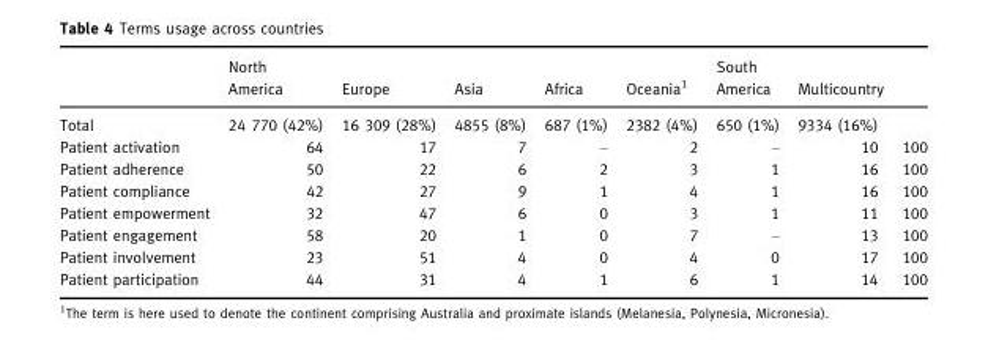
<table><thead><tr><td></td><td>North America</td><td>Europe</td><td>Asia</td><td>Africa</td><td>Oceania1</td><td>South America</td><td>Multicountry</td><td></td></tr></thead><tbody><tr><td>Total</td><td>24 770 (42%)</td><td>16 309 (28%)</td><td>4855 (8%)</td><td>687 (1%)</td><td>2382 (4%)</td><td>650 (1%)</td><td>9334 (16%)</td><td></td></tr><tr><td>Patient activation</td><td>64</td><td>17</td><td>7</td><td>–</td><td>2</td><td>–</td><td>10</td><td>100</td></tr><tr><td>Patient adherence</td><td>50</td><td>22</td><td>6</td><td>2</td><td>3</td><td>1</td><td>16</td><td>100</td></tr><tr><td>Patient compliance</td><td>42</td><td>27</td><td>9</td><td>1</td><td>4</td><td>1</td><td>16</td><td>100</td></tr><tr><td>Patient empowerment</td><td>32</td><td>47</td><td>6</td><td>0</td><td>3</td><td>1</td><td>11</td><td>100</td></tr><tr><td>Patient engagement</td><td>58</td><td>20</td><td>1</td><td>0</td><td>7</td><td>–</td><td>13</td><td>100</td></tr><tr><td>Patient involvement</td><td>23</td><td>51</td><td>4</td><td>0</td><td>4</td><td>0</td><td>17</td><td>100</td></tr><tr><td>Patient participation</td><td>44</td><td>31</td><td>4</td><td>1</td><td>6</td><td>1</td><td>14</td><td>100</td></tr></tbody></table>